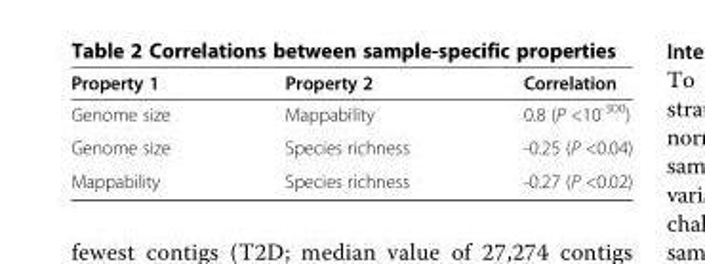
<table><thead><tr><td>Property 1</td><td>Property 2</td><td>Correlation</td></tr></thead><tbody><tr><td>Genome size</td><td>Mappability</td><td>0.8 (P &lt;10<sup>-300</sup>)</td></tr><tr><td>Genome size</td><td>Species richness</td><td>-0.25 (P &lt;0.04)</td></tr><tr><td>Mappability</td><td>Species richness</td><td>-0.27 (P &lt;0.02)</td></tr></tbody></table>